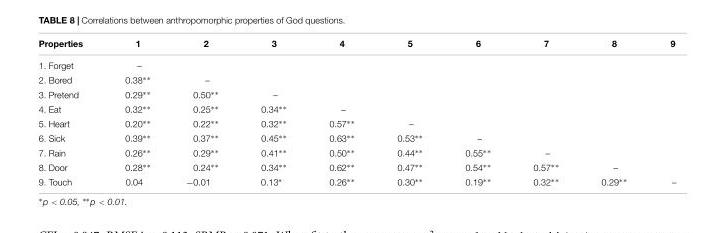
<table><thead><tr><td>Properties</td><td>1</td><td>2</td><td>3</td><td>4</td><td>5</td><td>6</td><td>7</td><td>8</td><td>9</td></tr></thead><tbody><tr><td>1. Forget</td><td>–</td><td></td><td></td><td></td><td></td><td></td><td></td><td></td><td></td></tr><tr><td>2. Bored</td><td>0.38∗∗</td><td>–</td><td></td><td></td><td></td><td></td><td></td><td></td><td></td></tr><tr><td>3. Pretend</td><td>0.29∗∗</td><td>0.50∗∗</td><td>–</td><td></td><td></td><td></td><td></td><td></td><td></td></tr><tr><td>4. Eat</td><td>0.32∗∗</td><td>0.25∗∗</td><td>0.34∗∗</td><td>–</td><td></td><td></td><td></td><td></td><td></td></tr><tr><td>5. Heart</td><td>0.20∗∗</td><td>0.22∗∗</td><td>0.32∗∗</td><td>0.57∗∗</td><td>–</td><td></td><td></td><td></td><td></td></tr><tr><td>6. Sick</td><td>0.39∗∗</td><td>0.37∗∗</td><td>0.45∗∗</td><td>0.63∗∗</td><td>0.53∗∗</td><td>–</td><td></td><td></td><td></td></tr><tr><td>7. Rain</td><td>0.26∗∗</td><td>0.29∗∗</td><td>0.41∗∗</td><td>0.50∗∗</td><td>0.44∗∗</td><td>0.55∗∗</td><td>–</td><td></td><td></td></tr><tr><td>8. Door</td><td>0.28∗∗</td><td>0.24∗∗</td><td>0.34∗∗</td><td>0.62∗∗</td><td>0.47∗∗</td><td>0.54∗∗</td><td>0.57∗∗</td><td>–</td><td></td></tr><tr><td>9. Touch</td><td>0.04</td><td>−0.01</td><td>0.13∗</td><td>0.26∗∗</td><td>0.30∗∗</td><td>0.19∗∗</td><td>0.32∗∗</td><td>0.29∗∗</td><td>–</td></tr></tbody></table>